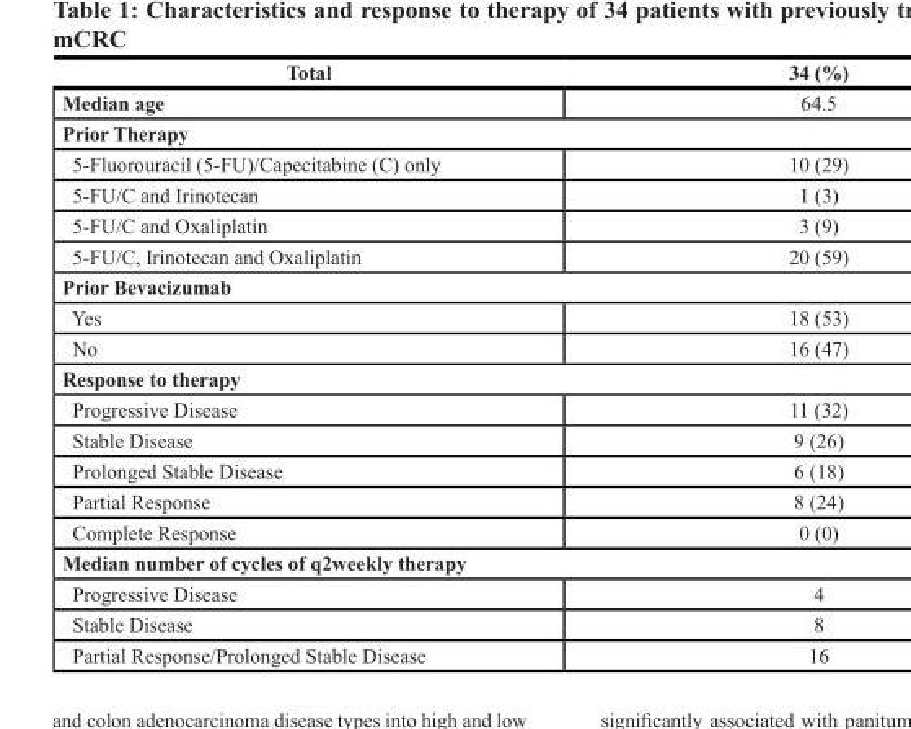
<table><thead><tr><td>Total</td><td>34 (%)</td></tr></thead><tbody><tr><td>Median age</td><td>64.5</td></tr><tr><td colspan="2">Prior Therapy</td></tr><tr><td>5-Fluorouracil (5-FU)/Capecitabine (C) only</td><td>10 (29)</td></tr><tr><td>5-FU/C and Irinotecan</td><td>1 (3)</td></tr><tr><td>5-FU/C and Oxaliplatin</td><td>3 (9)</td></tr><tr><td>5-FU/C, Irinotecan and Oxaliplatin</td><td>20 (59)</td></tr><tr><td colspan="2">Prior Bevacizumab</td></tr><tr><td>Yes</td><td>18 (53)</td></tr><tr><td>No</td><td>16 (47)</td></tr><tr><td colspan="2">Response to therapy</td></tr><tr><td>Progressive Disease</td><td>11 (32)</td></tr><tr><td>Stable Disease</td><td>9 (26)</td></tr><tr><td>Prolonged Stable Disease</td><td>6 (18)</td></tr><tr><td>Partial Response</td><td>8 (24)</td></tr><tr><td>Complete Response</td><td>0 (0)</td></tr><tr><td colspan="2">Median number of cycles of q2weekly therapy</td></tr><tr><td>Progressive Disease</td><td>4</td></tr><tr><td>Stable Disease</td><td>8</td></tr><tr><td>Partial Response/Prolonged Stable Disease</td><td>16</td></tr></tbody></table>